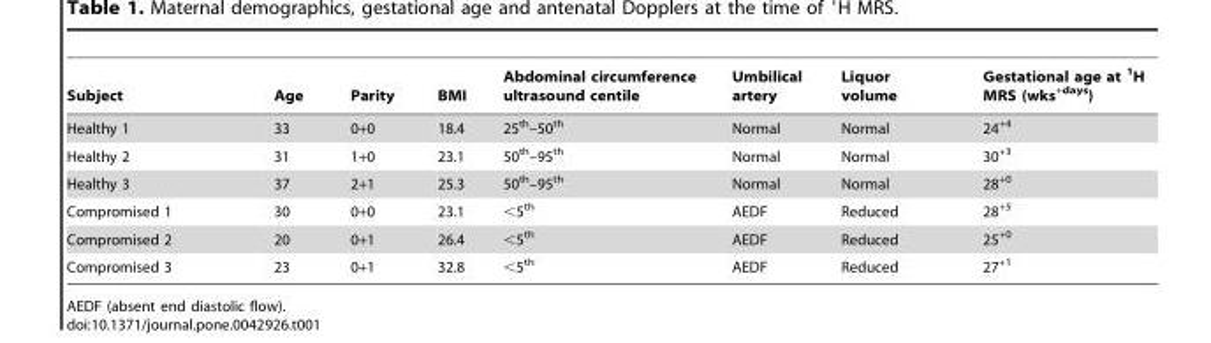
<table><thead><tr><td>Subject</td><td>Age</td><td>Parity</td><td>BMI</td><td>Abdominal circumference ultrasound centile</td><td>Umbilical artery</td><td>Liquor volume</td><td>Gestational age at <sup>1</sup>H MRS (wks<sup>+days</sup>)</td></tr></thead><tbody><tr><td>Healthy 1</td><td>33</td><td>0+0</td><td>18.4</td><td>25<sup>th</sup>–50<sup>th</sup></td><td>Normal</td><td>Normal</td><td>24<sup>+4</sup></td></tr><tr><td>Healthy 2</td><td>31</td><td>1+0</td><td>23.1</td><td>50<sup>th</sup>–95<sup>th</sup></td><td>Normal</td><td>Normal</td><td>30<sup>+3</sup></td></tr><tr><td>Healthy 3</td><td>37</td><td>2+1</td><td>25.3</td><td>50<sup>th</sup>–95<sup>th</sup></td><td>Normal</td><td>Normal</td><td>28<sup>+0</sup></td></tr><tr><td>Compromised 1</td><td>30</td><td>0+0</td><td>23.1</td><td>&lt;5<sup>th</sup></td><td>AEDF</td><td>Reduced</td><td>28<sup>+5</sup></td></tr><tr><td>Compromised 2</td><td>20</td><td>0+1</td><td>26.4</td><td>&lt;5<sup>th</sup></td><td>AEDF</td><td>Reduced</td><td>25<sup>+0</sup></td></tr><tr><td>Compromised 3</td><td>23</td><td>0+1</td><td>32.8</td><td>&lt;5<sup>th</sup></td><td>AEDF</td><td>Reduced</td><td>27<sup>+1</sup></td></tr></tbody></table>